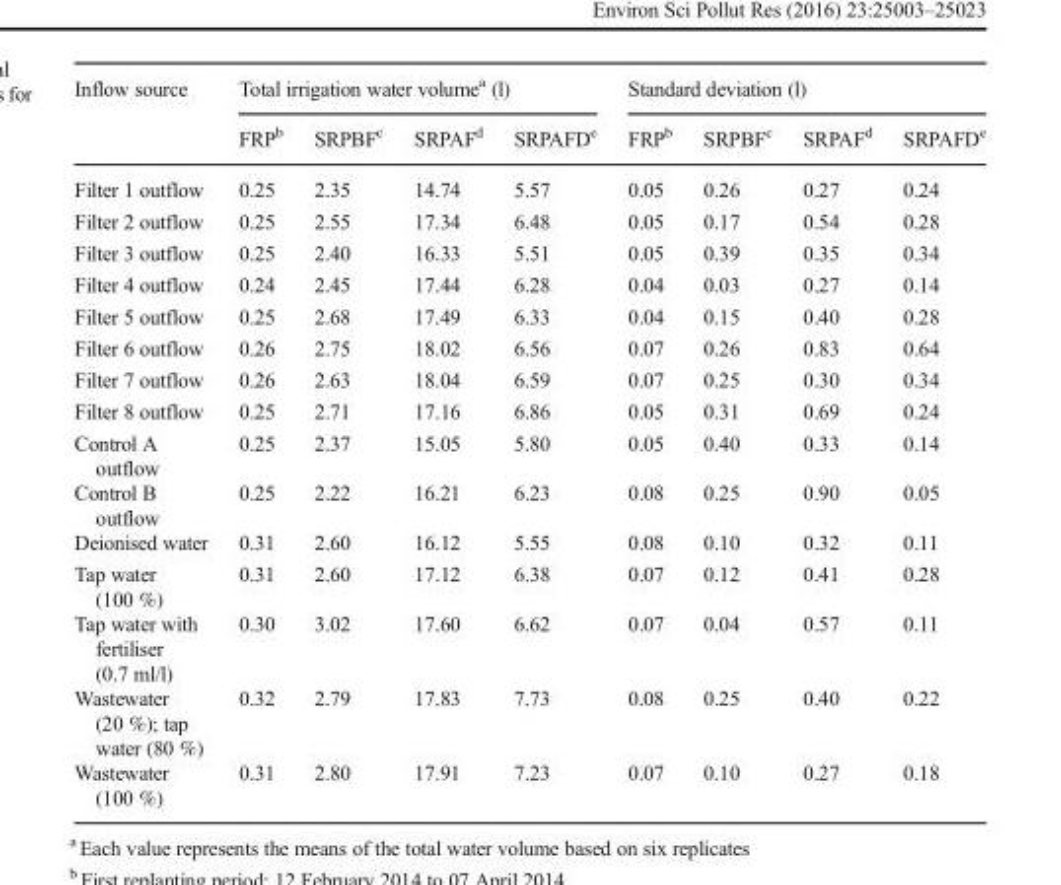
<table><thead><tr><td rowspan="2">Inflow source</td><td colspan="4">Total irrigation water volume<sup>a</sup> (l)</td><td colspan="4">Standard deviation (l)</td></tr><tr><td>FRP<sup>b</sup></td><td>SRPBF<sup>c</sup></td><td>SRPAF<sup>d</sup></td><td>SRPAFD<sup>e</sup></td><td>FRP<sup>b</sup></td><td>SRPBF<sup>c</sup></td><td>SRPAF<sup>d</sup></td><td>SRPAFD<sup>e</sup></td></tr></thead><tbody><tr><td>Filter 1 outflow</td><td>0.25</td><td>2.35</td><td>14.74</td><td>5.57</td><td>0.05</td><td>0.26</td><td>0.27</td><td>0.24</td></tr><tr><td>Filter 2 outflow</td><td>0.25</td><td>2.55</td><td>17.34</td><td>6.48</td><td>0.05</td><td>0.17</td><td>0.54</td><td>0.28</td></tr><tr><td>Filter 3 outflow</td><td>0.25</td><td>2.40</td><td>16.33</td><td>5.51</td><td>0.05</td><td>0.39</td><td>0.35</td><td>0.34</td></tr><tr><td>Filter 4 outflow</td><td>0.24</td><td>2.45</td><td>17.44</td><td>6.28</td><td>0.04</td><td>0.03</td><td>0.27</td><td>0.14</td></tr><tr><td>Filter 5 outflow</td><td>0.25</td><td>2.68</td><td>17.49</td><td>6.33</td><td>0.04</td><td>0.15</td><td>0.40</td><td>0.28</td></tr><tr><td>Filter 6 outflow</td><td>0.26</td><td>2.75</td><td>18.02</td><td>6.56</td><td>0.07</td><td>0.26</td><td>0.83</td><td>0.64</td></tr><tr><td>Filter 7 outflow</td><td>0.26</td><td>2.63</td><td>18.04</td><td>6.59</td><td>0.07</td><td>0.25</td><td>0.30</td><td>0.34</td></tr><tr><td>Filter 8 outflow</td><td>0.25</td><td>2.71</td><td>17.16</td><td>6.86</td><td>0.05</td><td>0.31</td><td>0.69</td><td>0.24</td></tr><tr><td>Control A outflow</td><td>0.25</td><td>2.37</td><td>15.05</td><td>5.80</td><td>0.05</td><td>0.40</td><td>0.33</td><td>0.14</td></tr><tr><td>Control B outflow</td><td>0.25</td><td>2.22</td><td>16.21</td><td>6.23</td><td>0.08</td><td>0.25</td><td>0.90</td><td>0.05</td></tr><tr><td>Deionised water</td><td>0.31</td><td>2.60</td><td>16.12</td><td>5.55</td><td>0.08</td><td>0.10</td><td>0.32</td><td>0.11</td></tr><tr><td>Tap water (100 %)</td><td>0.31</td><td>2.60</td><td>17.12</td><td>6.38</td><td>0.07</td><td>0.12</td><td>0.41</td><td>0.28</td></tr><tr><td>Tap water with fertiliser (0.7 ml/l)</td><td>0.30</td><td>3.02</td><td>17.60</td><td>6.62</td><td>0.07</td><td>0.04</td><td>0.57</td><td>0.11</td></tr><tr><td>Wastewater (20 %); tap water (80 %)</td><td>0.32</td><td>2.79</td><td>17.83</td><td>7.73</td><td>0.08</td><td>0.25</td><td>0.40</td><td>0.22</td></tr><tr><td>Wastewater (100 %)</td><td>0.31</td><td>2.80</td><td>17.91</td><td>7.23</td><td>0.07</td><td>0.10</td><td>0.27</td><td>0.18</td></tr></tbody></table>